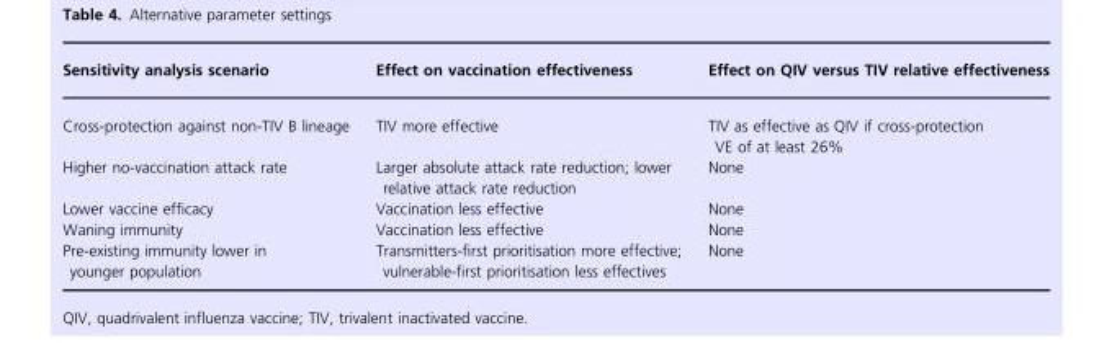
<table><thead><tr><td>Sensitivity analysis scenario</td><td>Effect on vaccination effectiveness</td><td>Effect on QIV versus TIV relative effectiveness</td></tr></thead><tbody><tr><td>Cross-protection against non-TIV B lineage</td><td>TIV more effective</td><td>TIV as effective as QIV if cross-protection VE of at least 26%</td></tr><tr><td>Higher no-vaccination attack rate</td><td>Larger absolute attack rate reduction; lower relative attack rate reduction</td><td>None</td></tr><tr><td>Lower vaccine efficacy</td><td>Vaccination less effective</td><td>None</td></tr><tr><td>Waning immunity</td><td>Vaccination less effective</td><td>None</td></tr><tr><td>Pre-existing immunity lower in younger population</td><td>Transmitters-first prioritisation more effective; vulnerable-first prioritisation less effectives</td><td>None</td></tr></tbody></table>